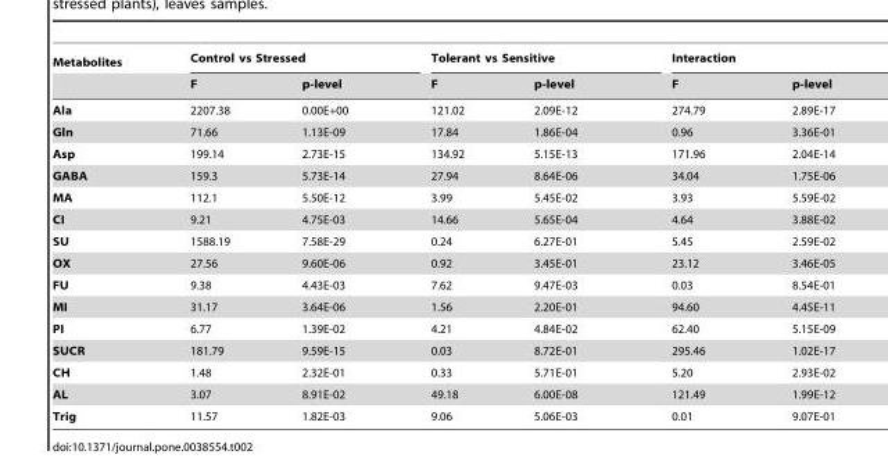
<table><thead><tr><td rowspan="2">Metabolites</td><td colspan="2">Control vs Stressed</td><td colspan="2">Tolerant vs Sensitive</td><td colspan="2">Interaction</td></tr><tr><td>F</td><td>p-level</td><td>F</td><td>p-level</td><td>F</td><td>p-level</td></tr></thead><tbody><tr><td>Ala</td><td>2207.38</td><td>0.00E+00</td><td>121.02</td><td>2.09E-12</td><td>274.79</td><td>2.89E-17</td></tr><tr><td>Gln</td><td>71.66</td><td>1.13E-09</td><td>17.84</td><td>1.86E-04</td><td>0.96</td><td>3.36E-01</td></tr><tr><td>Asp</td><td>199.14</td><td>2.73E-15</td><td>134.92</td><td>5.15E-13</td><td>171.96</td><td>2.04E-14</td></tr><tr><td>GABA</td><td>159.3</td><td>5.73E-14</td><td>27.94</td><td>8.64E-06</td><td>34.04</td><td>1.75E-06</td></tr><tr><td>MA</td><td>112.1</td><td>5.50E-12</td><td>3.99</td><td>5.45E-02</td><td>3.93</td><td>5.59E-02</td></tr><tr><td>CI</td><td>9.21</td><td>4.75E-03</td><td>14.66</td><td>5.65E-04</td><td>4.64</td><td>3.88E-02</td></tr><tr><td>SU</td><td>1588.19</td><td>7.58E-29</td><td>0.24</td><td>6.27E-01</td><td>5.45</td><td>2.59E-02</td></tr><tr><td>OX</td><td>27.56</td><td>9.60E-06</td><td>0.92</td><td>3.45E-01</td><td>23.12</td><td>3.46E-05</td></tr><tr><td>FU</td><td>9.38</td><td>4.43E-03</td><td>7.62</td><td>9.47E-03</td><td>0.03</td><td>8.54E-01</td></tr><tr><td>MI</td><td>31.17</td><td>3.64E-06</td><td>1.56</td><td>2.20E-01</td><td>94.60</td><td>4.45E-11</td></tr><tr><td>PI</td><td>6.77</td><td>1.39E-02</td><td>4.21</td><td>4.84E-02</td><td>62.40</td><td>5.15E-09</td></tr><tr><td>SUCR</td><td>181.79</td><td>9.59E-15</td><td>0.03</td><td>8.72E-01</td><td>295.46</td><td>1.02E-17</td></tr><tr><td>CH</td><td>1.48</td><td>2.32E-01</td><td>0.33</td><td>5.71E-01</td><td>5.20</td><td>2.93E-02</td></tr><tr><td>AL</td><td>3.07</td><td>8.91E-02</td><td>49.18</td><td>6.00E-08</td><td>121.49</td><td>1.99E-12</td></tr><tr><td>Trig</td><td>11.57</td><td>1.82E-03</td><td>9.06</td><td>5.06E-03</td><td>0.01</td><td>9.07E-01</td></tr></tbody></table>